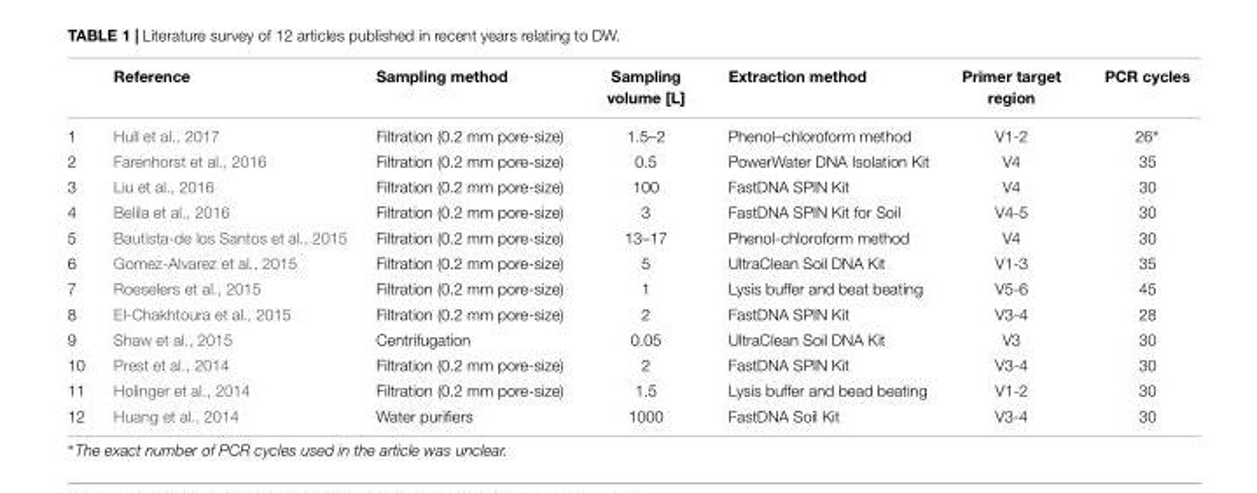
<table><thead><tr><td></td><td>Reference</td><td>Sampling method</td><td>Sampling volume [L]</td><td>Extraction method</td><td>Primer target region</td><td>PCR cycles</td></tr></thead><tbody><tr><td>1</td><td>Hull et al., 2017</td><td>Filtration (0.2 mm pore-size)</td><td>1.5–2</td><td>Phenol–chloroform method</td><td>V1-2</td><td>26∗</td></tr><tr><td>2</td><td>Farenhorst et al., 2016</td><td>Filtration (0.2 mm pore-size)</td><td>0.5</td><td>PowerWater DNA Isolation Kit</td><td>V4</td><td>35</td></tr><tr><td>3</td><td>Liu et al., 2016</td><td>Filtration (0.2 mm pore-size)</td><td>100</td><td>FastDNA SPIN Kit</td><td>V4</td><td>30</td></tr><tr><td>4</td><td>Belila et al., 2016</td><td>Filtration (0.2 mm pore-size)</td><td>3</td><td>FastDNA SPIN Kit for Soil</td><td>V4-5</td><td>30</td></tr><tr><td>5</td><td>Bautista-de los Santos et al., 2015</td><td>Filtration (0.2 mm pore-size)</td><td>13–17</td><td>Phenol-chloroform method</td><td>V4</td><td>30</td></tr><tr><td>6</td><td>Gomez-Alvarez et al., 2015</td><td>Filtration (0.2 mm pore-size)</td><td>5</td><td>UltraClean Soil DNA Kit</td><td>V1-3</td><td>35</td></tr><tr><td>7</td><td>Roeselers et al., 2015</td><td>Filtration (0.2 mm pore-size)</td><td>1</td><td>Lysis buffer and beat beating</td><td>V5-6</td><td>45</td></tr><tr><td>8</td><td>El-Chakhtoura et al., 2015</td><td>Filtration (0.2 mm pore-size)</td><td>2</td><td>FastDNA SPIN Kit</td><td>V3-4</td><td>28</td></tr><tr><td>9</td><td>Shaw et al., 2015</td><td>Centrifugation</td><td>0.05</td><td>UltraClean Soil DNA Kit</td><td>V3</td><td>30</td></tr><tr><td>10</td><td>Prest et al., 2014</td><td>Filtration (0.2 mm pore-size)</td><td>2</td><td>FastDNA SPIN Kit</td><td>V3-4</td><td>30</td></tr><tr><td>11</td><td>Holinger et al., 2014</td><td>Filtration (0.2 mm pore-size)</td><td>1.5</td><td>Lysis buffer and bead beating</td><td>V1-2</td><td>30</td></tr><tr><td>12</td><td>Huang et al., 2014</td><td>Water purifiers</td><td>1000</td><td>FastDNA Soil Kit</td><td>V3-4</td><td>30</td></tr></tbody></table>